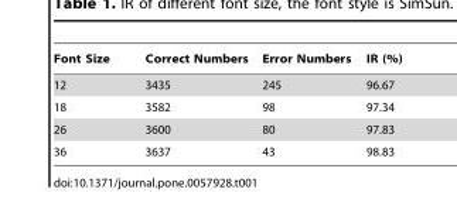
<table><thead><tr><td>Font Size</td><td>Correct Numbers</td><td>Error Numbers</td><td>IR (%)</td></tr></thead><tbody><tr><td>12</td><td>3435</td><td>245</td><td>96.67</td></tr><tr><td>18</td><td>3582</td><td>98</td><td>97.34</td></tr><tr><td>26</td><td>3600</td><td>80</td><td>97.83</td></tr><tr><td>36</td><td>3637</td><td>43</td><td>98.83</td></tr></tbody></table>